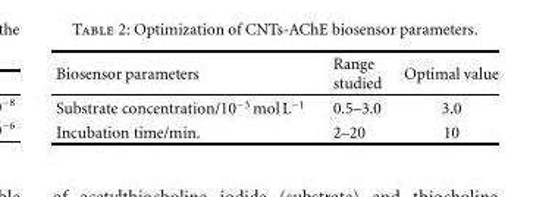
<table><thead><tr><td>Biosensor parameters</td><td>Range studied</td><td>Optimal value</td></tr></thead><tbody><tr><td>Substrate concentration/10<sup>−3</sup> molL<sup>−1</sup></td><td>0.5–3.0</td><td>3.0</td></tr><tr><td>Incubation time/min.</td><td>2–20</td><td>10</td></tr></tbody></table>